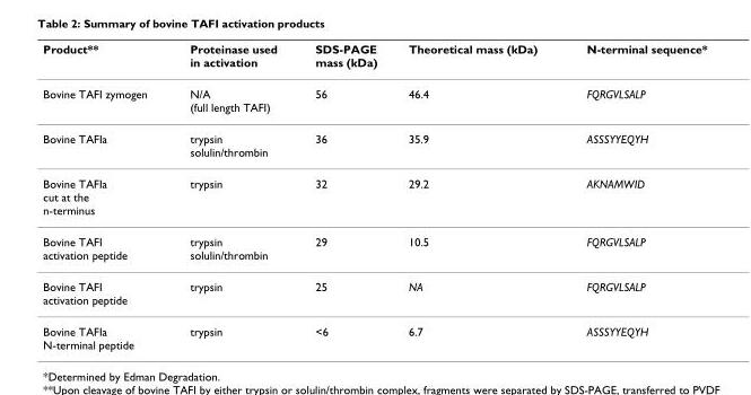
<table><thead><tr><td>Product**</td><td>Proteinase used in activation</td><td>SDS-PAGE mass (kDa)</td><td>Theoretical mass (kDa)</td><td>N-terminal sequence*</td></tr></thead><tbody><tr><td>Bovine TAFI zymogen</td><td>N/A (full length TAFI)</td><td>56</td><td>46.4</td><td>FQRGVLSALP</td></tr><tr><td>Bovine TAFIa</td><td>trypsin solulin/thrombin</td><td>36</td><td>35.9</td><td>ASSSYYEQYH</td></tr><tr><td>Bovine TAFIa cut at the n-terminus</td><td>trypsin</td><td>32</td><td>29.2</td><td>AKNAMWID</td></tr><tr><td>Bovine TAFI activation peptide</td><td>trypsin solulin/thrombin</td><td>29</td><td>10.5</td><td>FQRGVLSALP</td></tr><tr><td>Bovine TAFI activation peptide</td><td>trypsin</td><td>25</td><td>NA</td><td>FQRGVLSALP</td></tr><tr><td>Bovine TAFIa N-terminal peptide</td><td>trypsin</td><td>&lt;6</td><td>6.7</td><td>ASSSYYEQYH</td></tr></tbody></table>